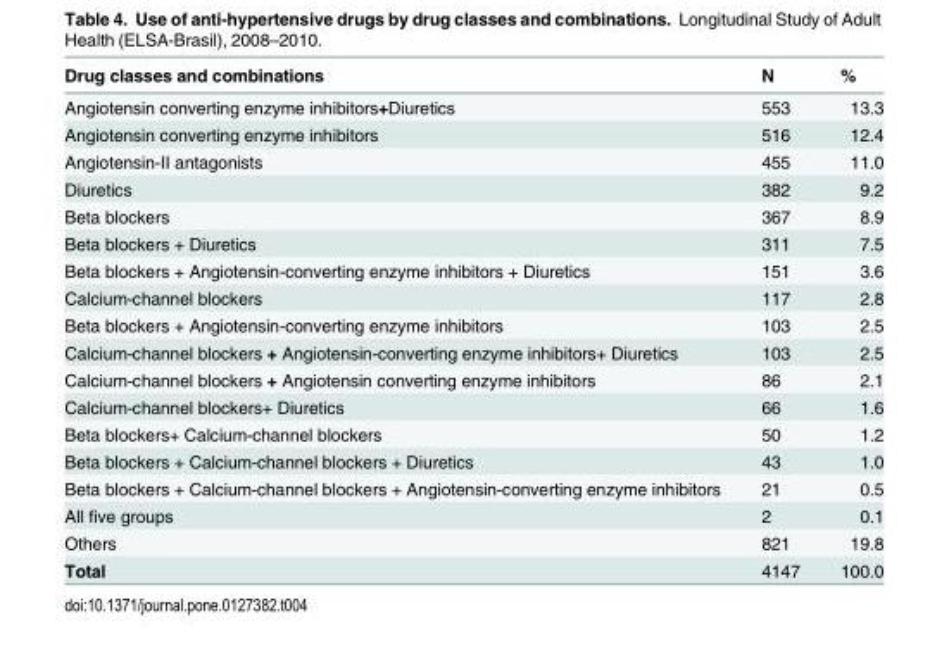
<table><thead><tr><td>Drug classes and combinations</td><td>N</td><td>%</td></tr></thead><tbody><tr><td>Angiotensin converting enzyme inhibitors+Diuretics</td><td>553</td><td>13.3</td></tr><tr><td>Angiotensin converting enzyme inhibitors</td><td>516</td><td>12.4</td></tr><tr><td>Angiotensin-II antagonists</td><td>455</td><td>11.0</td></tr><tr><td>Diuretics</td><td>382</td><td>9.2</td></tr><tr><td>Beta blockers</td><td>367</td><td>8.9</td></tr><tr><td>Beta blockers + Diuretics</td><td>311</td><td>7.5</td></tr><tr><td>Beta blockers + Angiotensin-converting enzyme inhibitors + Diuretics</td><td>151</td><td>3.6</td></tr><tr><td>Calcium-channel blockers</td><td>117</td><td>2.8</td></tr><tr><td>Beta blockers + Angiotensin-converting enzyme inhibitors</td><td>103</td><td>2.5</td></tr><tr><td>Calcium-channel blockers + Angiotensin-converting enzyme inhibitors+ Diuretics</td><td>103</td><td>2.5</td></tr><tr><td>Calcium-channel blockers + Angiotensin converting enzyme inhibitors</td><td>86</td><td>2.1</td></tr><tr><td>Calcium-channel blockers+ Diuretics</td><td>66</td><td>1.6</td></tr><tr><td>Beta blockers+ Calcium-channel blockers</td><td>50</td><td>1.2</td></tr><tr><td>Beta blockers + Calcium-channel blockers + Diuretics</td><td>43</td><td>1.0</td></tr><tr><td>Beta blockers + Calcium-channel blockers + Angiotensin-converting enzyme inhibitors</td><td>21</td><td>0.5</td></tr><tr><td>All five groups</td><td>2</td><td>0.1</td></tr><tr><td>Others</td><td>821</td><td>19.8</td></tr><tr><td>Total</td><td>4147</td><td>100.0</td></tr></tbody></table>